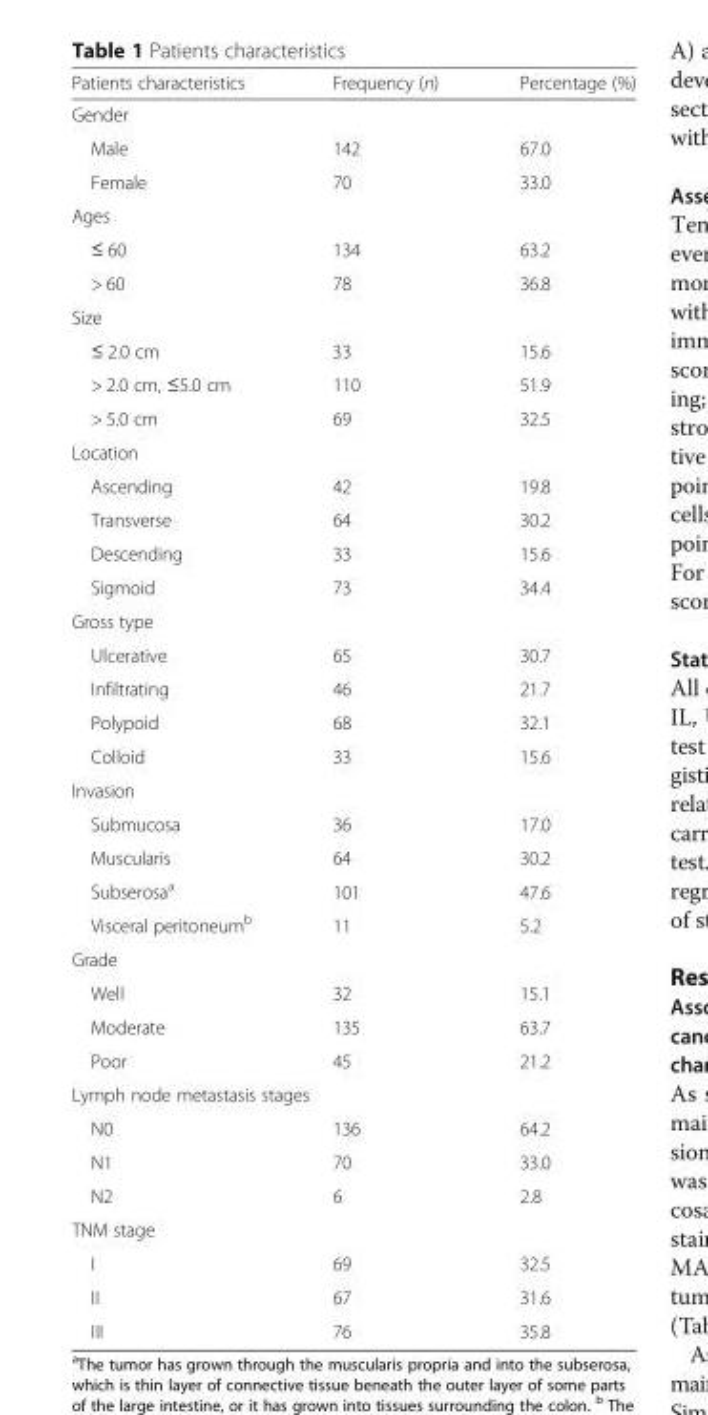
<table><thead><tr><td>Patients characteristics</td><td>Frequency (n)</td><td>Percentage (%)</td></tr></thead><tbody><tr><td colspan="3">Gender</td></tr><tr><td>Male</td><td>142</td><td>67.0</td></tr><tr><td>Female</td><td>70</td><td>33.0</td></tr><tr><td colspan="3">Ages</td></tr><tr><td>≤ 60</td><td>134</td><td>63.2</td></tr><tr><td>&gt; 60</td><td>78</td><td>36.8</td></tr><tr><td colspan="3">Size</td></tr><tr><td>≤ 2.0 cm</td><td>33</td><td>15.6</td></tr><tr><td>&gt; 2.0 cm, ≤5.0 cm</td><td>110</td><td>51.9</td></tr><tr><td>&gt; 5.0 cm</td><td>69</td><td>32.5</td></tr><tr><td colspan="3">Location</td></tr><tr><td>Ascending</td><td>42</td><td>19.8</td></tr><tr><td>Transverse</td><td>64</td><td>30.2</td></tr><tr><td>Descending</td><td>33</td><td>15.6</td></tr><tr><td>Sigmoid</td><td>73</td><td>34.4</td></tr><tr><td colspan="3">Gross type</td></tr><tr><td>Ulcerative</td><td>65</td><td>30.7</td></tr><tr><td>Infiltrating</td><td>46</td><td>21.7</td></tr><tr><td>Polypoid</td><td>68</td><td>32.1</td></tr><tr><td>Colloid</td><td>33</td><td>15.6</td></tr><tr><td colspan="3">Invasion</td></tr><tr><td>Submucosa</td><td>36</td><td>17.0</td></tr><tr><td>Muscularis</td><td>64</td><td>30.2</td></tr><tr><td>Subserosa<sup>a</sup></td><td>101</td><td>47.6</td></tr><tr><td>Visceral peritoneum<sup>b</sup></td><td>11</td><td>5.2</td></tr><tr><td colspan="3">Grade</td></tr><tr><td>Well</td><td>32</td><td>15.1</td></tr><tr><td>Moderate</td><td>135</td><td>63.7</td></tr><tr><td>Poor</td><td>45</td><td>21.2</td></tr><tr><td colspan="3">Lymph node metastasis stages</td></tr><tr><td>N0</td><td>136</td><td>64.2</td></tr><tr><td>N1</td><td>70</td><td>33.0</td></tr><tr><td>N2</td><td>6</td><td>2.8</td></tr><tr><td colspan="3">TNM stage</td></tr><tr><td>I</td><td>69</td><td>32.5</td></tr><tr><td>II</td><td>67</td><td>31.6</td></tr><tr><td>III</td><td>76</td><td>35.8</td></tr></tbody></table>